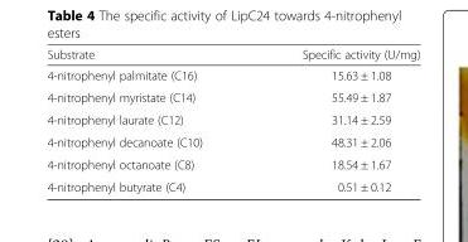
<table><thead><tr><td>Substrate</td><td>Specific activity (U/mg)</td></tr></thead><tbody><tr><td>4-nitrophenyl palmitate (C16)</td><td>15.63 ± 1.08</td></tr><tr><td>4-nitrophenyl myristate (C14)</td><td>55.49 ± 1.87</td></tr><tr><td>4-nitrophenyl laurate (C12)</td><td>31.14 ± 2.59</td></tr><tr><td>4-nitrophenyl decanoate (C10)</td><td>48.31 ± 2.06</td></tr><tr><td>4-nitrophenyl octanoate (C8)</td><td>18.54 ± 1.67</td></tr><tr><td>4-nitrophenyl butyrate (C4)</td><td>0.51 ± 0.12</td></tr></tbody></table>